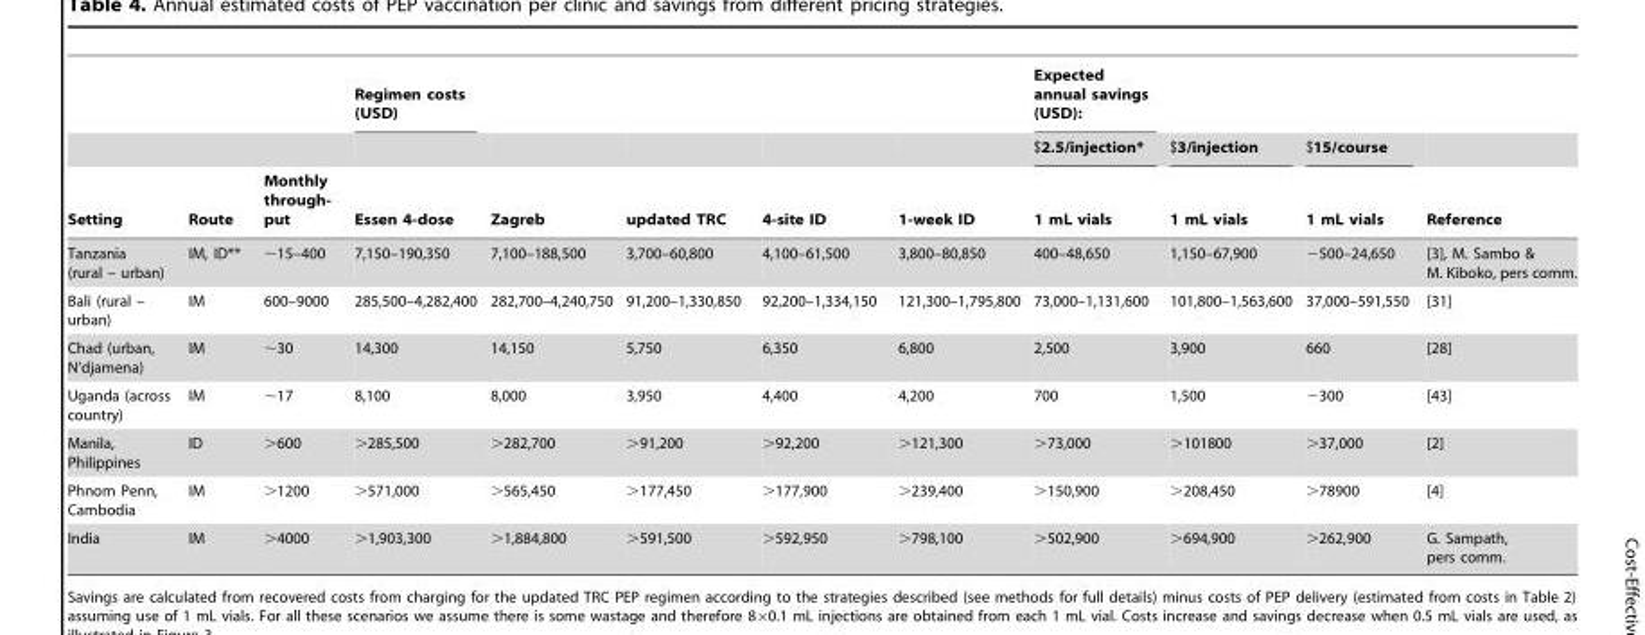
<table><thead><tr><td rowspan="3">Setting</td><td rowspan="3">Route</td><td rowspan="3">Monthly through- put</td><td rowspan="3">Regimen costs (USD) Essen 4-dose</td><td rowspan="3">Zagreb</td><td rowspan="3">updated TRC</td><td rowspan="3">4-site ID</td><td rowspan="3">1-week ID</td><td rowspan="3">Expected annual savings (USD): $2.5/injection* 1 mL vials</td><td rowspan="3">$3/injection 1 mL vials</td><td rowspan="3">$15/course 1 mL vials</td><td rowspan="3">Reference</td></tr><tr></tr><tr></tr></thead><tbody><tr><td>Tanzania (rural – urban)</td><td>IM, ID**</td><td>∼15–400</td><td>7,150–190,350</td><td>7,100–188,500</td><td>3,700–60,800</td><td>4,100–61,500</td><td>3,800–80,850</td><td>400–48,650</td><td>1,150–67,900</td><td>−500–24,650</td><td>[3], M. Sambo &amp; M. Kiboko, pers comm.</td></tr><tr><td>Bali (rural – urban)</td><td>IM</td><td>600–9000</td><td>285,500–4,282,400</td><td>282,700–4,240,750</td><td>91,200–1,330,850</td><td>92,200–1,334,150</td><td>121,300–1,795,800</td><td>73,000–1,131,600</td><td>101,800–1,563,600</td><td>37,000–591,550</td><td>[31]</td></tr><tr><td>Chad (urban, N’djamena)</td><td>IM</td><td>∼30</td><td>14,300</td><td>14,150</td><td>5,750</td><td>6,350</td><td>6,800</td><td>2,500</td><td>3,900</td><td>660</td><td>[28]</td></tr><tr><td>Uganda (across country)</td><td>IM</td><td>∼17</td><td>8,100</td><td>8,000</td><td>3,950</td><td>4,400</td><td>4,200</td><td>700</td><td>1,500</td><td>−300</td><td>[43]</td></tr><tr><td>Manila, Philippines</td><td>ID</td><td>&gt;600</td><td>&gt;285,500</td><td>&gt;282,700</td><td>&gt;91,200</td><td>&gt;92,200</td><td>&gt;121,300</td><td>&gt;73,000</td><td>&gt;101800</td><td>&gt;37,000</td><td>[2]</td></tr><tr><td>Phnom Penn, Cambodia</td><td>IM</td><td>&gt;1200</td><td>&gt;571,000</td><td>&gt;565,450</td><td>&gt;177,450</td><td>&gt;177,900</td><td>&gt;239,400</td><td>&gt;150,900</td><td>&gt;208,450</td><td>&gt;78900</td><td>[4]</td></tr><tr><td>India</td><td>IM</td><td>&gt;4000</td><td>&gt;1,903,300</td><td>&gt;1,884,800</td><td>&gt;591,500</td><td>&gt;592,950</td><td>&gt;798,100</td><td>&gt;502,900</td><td>&gt;694,900</td><td>&gt;262,900</td><td>G. Sampath, pers comm.</td></tr></tbody></table>